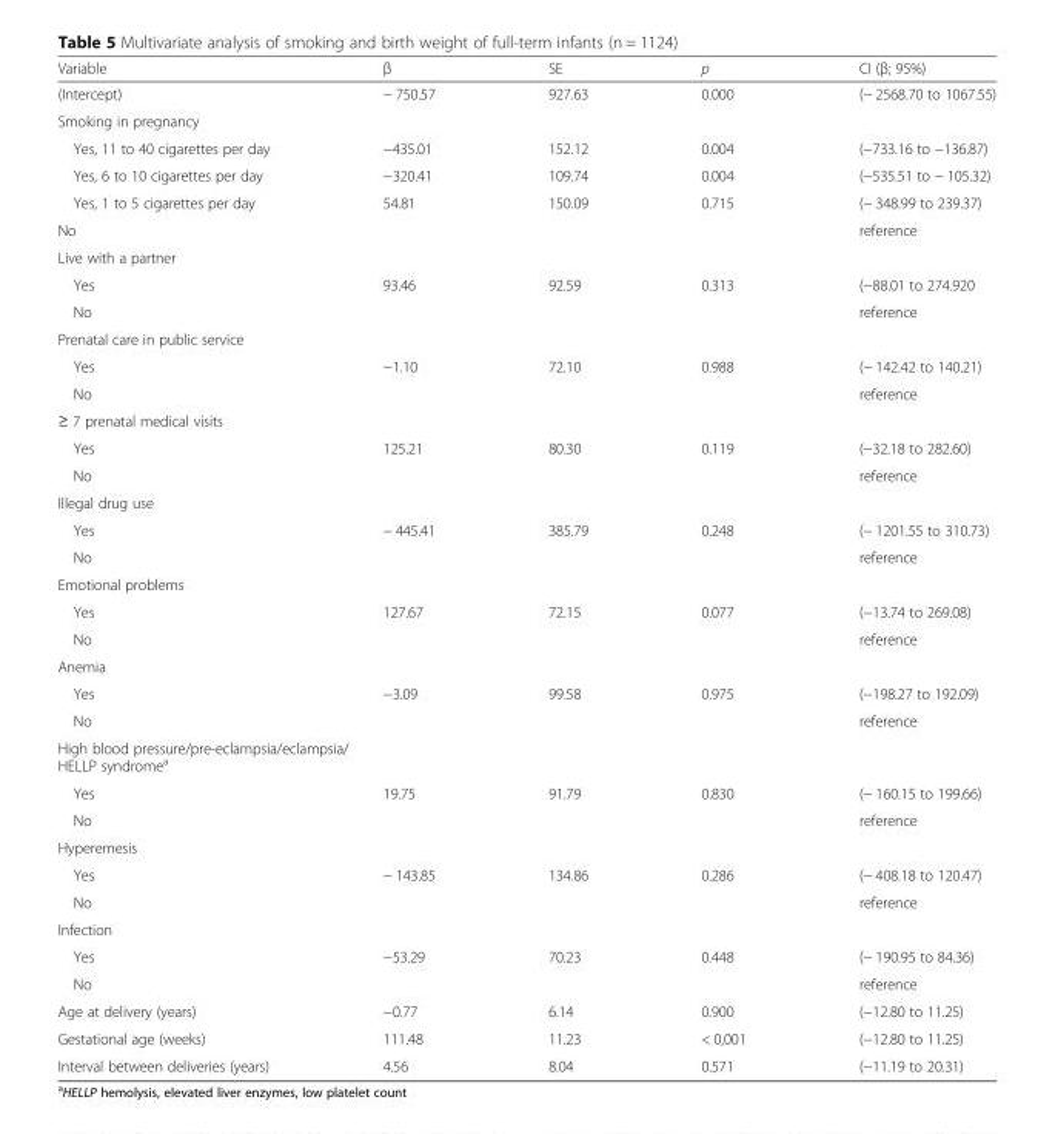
<table><thead><tr><td>Variable</td><td>β</td><td>SE</td><td>p</td><td>CI (β; 95%)</td></tr></thead><tbody><tr><td>(Intercept)</td><td>− 750.57</td><td>927.63</td><td>0.000</td><td>(− 2568.70 to 1067.55)</td></tr><tr><td colspan="5">Smoking in pregnancy</td></tr><tr><td>Yes, 11 to 40 cigarettes per day</td><td>−435.01</td><td>152.12</td><td>0.004</td><td>(−733.16 to −136.87)</td></tr><tr><td>Yes, 6 to 10 cigarettes per day</td><td>−320.41</td><td>109.74</td><td>0.004</td><td>(−535.51 to − 105.32)</td></tr><tr><td>Yes, 1 to 5 cigarettes per day</td><td>54.81</td><td>150.09</td><td>0.715</td><td>(− 348.99 to 239.37)</td></tr><tr><td>No</td><td></td><td></td><td></td><td>reference</td></tr><tr><td colspan="5">Live with a partner</td></tr><tr><td>Yes</td><td>93.46</td><td>92.59</td><td>0.313</td><td>(−88.01 to 274.920</td></tr><tr><td>No</td><td></td><td></td><td></td><td>reference</td></tr><tr><td colspan="5">Prenatal care in public service</td></tr><tr><td>Yes</td><td>−1.10</td><td>72.10</td><td>0.988</td><td>(− 142.42 to 140.21)</td></tr><tr><td>No</td><td></td><td></td><td></td><td>reference</td></tr><tr><td colspan="5">≥ 7 prenatal medical visits</td></tr><tr><td>Yes</td><td>125.21</td><td>80.30</td><td>0.119</td><td>(−32.18 to 282.60)</td></tr><tr><td>No</td><td></td><td></td><td></td><td>reference</td></tr><tr><td colspan="5">Illegal drug use</td></tr><tr><td>Yes</td><td>− 445.41</td><td>385.79</td><td>0.248</td><td>(− 1201.55 to 310.73)</td></tr><tr><td>No</td><td></td><td></td><td></td><td>reference</td></tr><tr><td colspan="5">Emotional problems</td></tr><tr><td>Yes</td><td>127.67</td><td>72.15</td><td>0.077</td><td>(−13.74 to 269.08)</td></tr><tr><td>No</td><td></td><td></td><td></td><td>reference</td></tr><tr><td colspan="5">Anemia</td></tr><tr><td>Yes</td><td>−3.09</td><td>99.58</td><td>0.975</td><td>(−198.27 to 192.09)</td></tr><tr><td>No</td><td></td><td></td><td></td><td>reference</td></tr><tr><td colspan="5">High blood pressure/pre-eclampsia/eclampsia/ HELLP syndrome<sup>a</sup></td></tr><tr><td>Yes</td><td>19.75</td><td>91.79</td><td>0.830</td><td>(− 160.15 to 199.66)</td></tr><tr><td>No</td><td></td><td></td><td></td><td>reference</td></tr><tr><td colspan="5">Hyperemesis</td></tr><tr><td>Yes</td><td>− 143.85</td><td>134.86</td><td>0.286</td><td>(− 408.18 to 120.47)</td></tr><tr><td>No</td><td></td><td></td><td></td><td>reference</td></tr><tr><td colspan="5">Infection</td></tr><tr><td>Yes</td><td>−53.29</td><td>70.23</td><td>0.448</td><td>(− 190.95 to 84.36)</td></tr><tr><td>No</td><td></td><td></td><td></td><td>reference</td></tr><tr><td>Age at delivery (years)</td><td>−0.77</td><td>6.14</td><td>0.900</td><td>(−12.80 to 11.25)</td></tr><tr><td>Gestational age (weeks)</td><td>111.48</td><td>11.23</td><td>&lt; 0,001</td><td>(−12.80 to 11.25)</td></tr><tr><td>Interval between deliveries (years)</td><td>4.56</td><td>8.04</td><td>0.571</td><td>(−11.19 to 20.31)</td></tr></tbody></table>